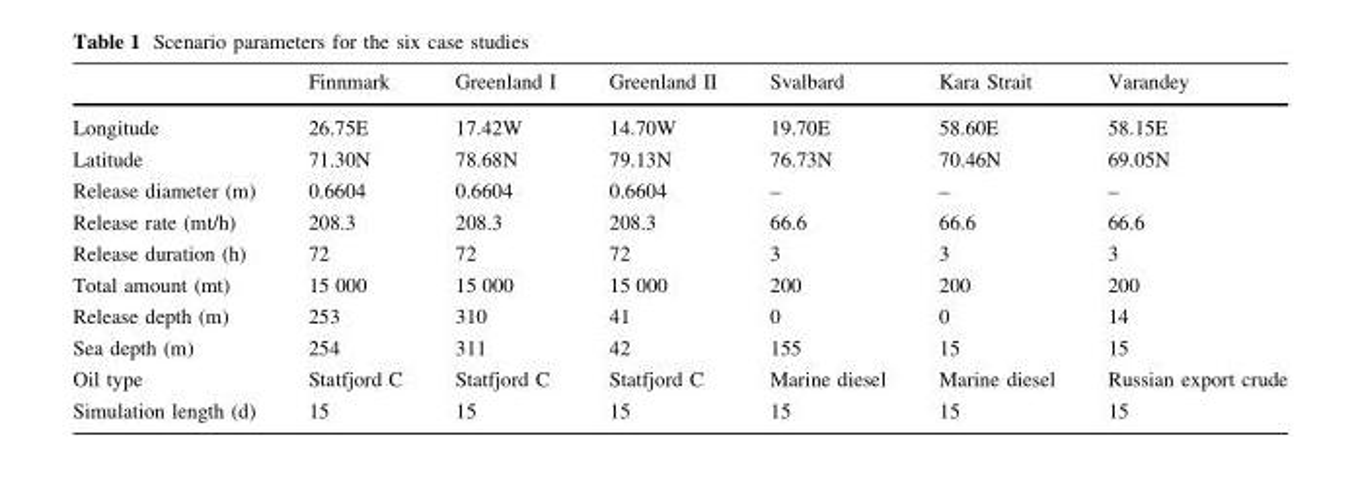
<table><thead><tr><td></td><td>Finnmark</td><td>Greenland I</td><td>Greenland II</td><td>Svalbard</td><td>Kara Strait</td><td>Varandey</td></tr></thead><tbody><tr><td>Longitude</td><td>26.75E</td><td>17.42W</td><td>14.70W</td><td>19.70E</td><td>58.60E</td><td>58.15E</td></tr><tr><td>Latitude</td><td>71.30N</td><td>78.68N</td><td>79.13N</td><td>76.73N</td><td>70.46N</td><td>69.05N</td></tr><tr><td>Release diameter (m)</td><td>0.6604</td><td>0.6604</td><td>0.6604</td><td>–</td><td>–</td><td>–</td></tr><tr><td>Release rate (mt/h)</td><td>208.3</td><td>208.3</td><td>208.3</td><td>66.6</td><td>66.6</td><td>66.6</td></tr><tr><td>Release duration (h)</td><td>72</td><td>72</td><td>72</td><td>3</td><td>3</td><td>3</td></tr><tr><td>Total amount (mt)</td><td>15 000</td><td>15 000</td><td>15 000</td><td>200</td><td>200</td><td>200</td></tr><tr><td>Release depth (m)</td><td>253</td><td>310</td><td>41</td><td>0</td><td>0</td><td>14</td></tr><tr><td>Sea depth (m)</td><td>254</td><td>311</td><td>42</td><td>155</td><td>15</td><td>15</td></tr><tr><td>Oil type</td><td>Statfjord C</td><td>Statfjord C</td><td>Statfjord C</td><td>Marine diesel</td><td>Marine diesel</td><td>Russian export crude</td></tr><tr><td>Simulation length (d)</td><td>15</td><td>15</td><td>15</td><td>15</td><td>15</td><td>15</td></tr></tbody></table>